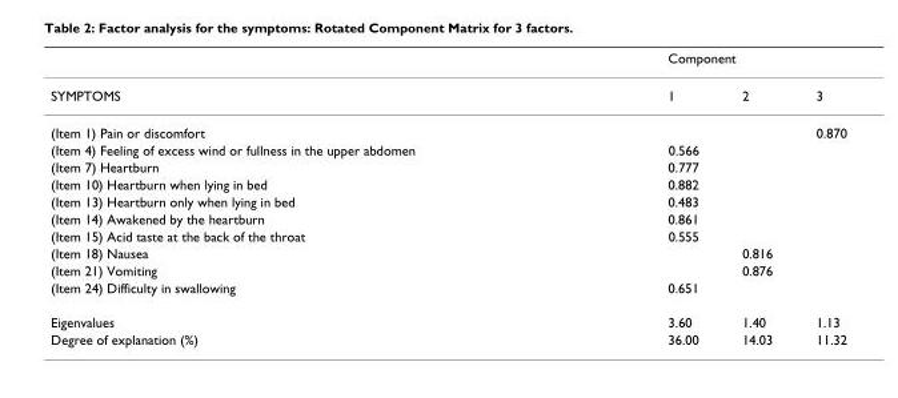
<table><thead><tr><td rowspan="2">SYMPTOMS</td><td colspan="3">Component</td></tr><tr><td>1</td><td>2</td><td>3</td></tr></thead><tbody><tr><td>(Item 1) Pain or discomfort</td><td></td><td></td><td>0.870</td></tr><tr><td>(Item 4) Feeling of excess wind or fullness in the upper abdomen</td><td>0.566</td><td></td><td></td></tr><tr><td>(Item 7) Heartburn</td><td>0.777</td><td></td><td></td></tr><tr><td>(Item 10) Heartburn when lying in bed</td><td>0.882</td><td></td><td></td></tr><tr><td>(Item 13) Heartburn only when lying in bed</td><td>0.483</td><td></td><td></td></tr><tr><td>(Item 14) Awakened by the heartburn</td><td>0.861</td><td></td><td></td></tr><tr><td>(Item 15) Acid taste at the back of the throat</td><td>0.555</td><td></td><td></td></tr><tr><td>(Item 18) Nausea</td><td></td><td>0.816</td><td></td></tr><tr><td>(Item 21) Vomiting</td><td></td><td>0.876</td><td></td></tr><tr><td>(Item 24) Difficulty in swallowing</td><td>0.651</td><td></td><td></td></tr><tr><td>Eigenvalues</td><td>3.60</td><td>1.40</td><td>1.13</td></tr><tr><td>Degree of explanation (%)</td><td>36.00</td><td>14.03</td><td>11.32</td></tr></tbody></table>